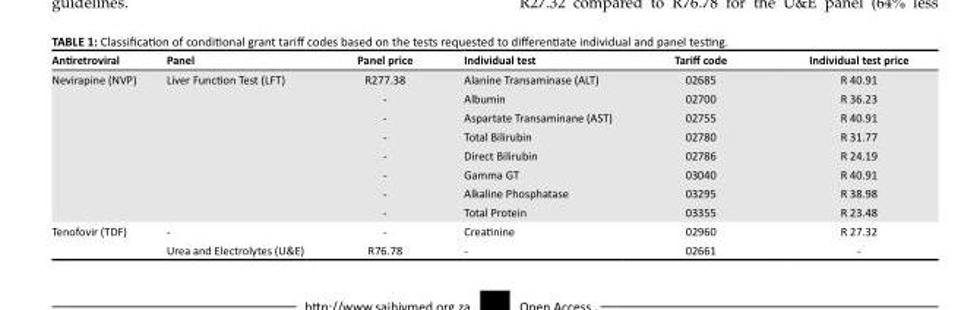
<table><thead><tr><td>Antiretroviral</td><td>Panel</td><td>Panel price</td><td>Individual test</td><td>Tariff code</td><td>Individual test price</td></tr></thead><tbody><tr><td rowspan="8">Nevirapine (NVP)</td><td>Liver Function Test (LFT)</td><td>R277.38</td><td>Alanine Transaminase (ALT)</td><td>02685</td><td>R 40.91</td></tr><tr><td></td><td>-</td><td>Albumin</td><td>02700</td><td>R 36.23</td></tr><tr><td></td><td>-</td><td>Aspartate Transaminane (AST)</td><td>02755</td><td>R 40.91</td></tr><tr><td></td><td>-</td><td>Total Bilirubin</td><td>02780</td><td>R 31.77</td></tr><tr><td></td><td>-</td><td>Direct Bilirubin</td><td>02786</td><td>R 24.19</td></tr><tr><td></td><td>-</td><td>Gamma GT</td><td>03040</td><td>R 40.91</td></tr><tr><td></td><td>-</td><td>Alkaline Phosphatase</td><td>03295</td><td>R 38.98</td></tr><tr><td></td><td>-</td><td>Total Protein</td><td>03355</td><td>R 23.48</td></tr><tr><td rowspan="2">Tenofovir (TDF)</td><td>-</td><td>-</td><td>Creatinine</td><td>02960</td><td>R 27.32</td></tr><tr><td>Urea and Electrolytes (U&amp;E)</td><td>R76.78</td><td>-</td><td>02661</td><td>-</td></tr></tbody></table>